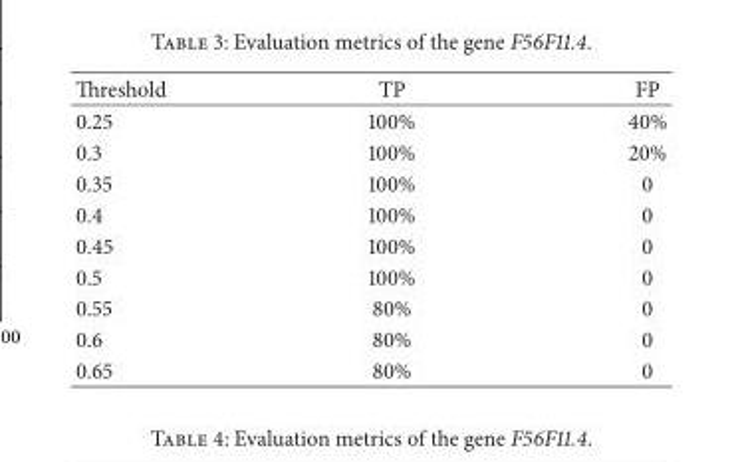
<table><thead><tr><td>Threshold</td><td>TP</td><td>FP</td></tr></thead><tbody><tr><td>0.25</td><td>100%</td><td>40%</td></tr><tr><td>0.3</td><td>100%</td><td>20%</td></tr><tr><td>0.35</td><td>100%</td><td>0</td></tr><tr><td>0.4</td><td>100%</td><td>0</td></tr><tr><td>0.45</td><td>100%</td><td>0</td></tr><tr><td>0.5</td><td>100%</td><td>0</td></tr><tr><td>0.55</td><td>80%</td><td>0</td></tr><tr><td>0.6</td><td>80%</td><td>0</td></tr><tr><td>0.65</td><td>80%</td><td>0</td></tr></tbody></table>